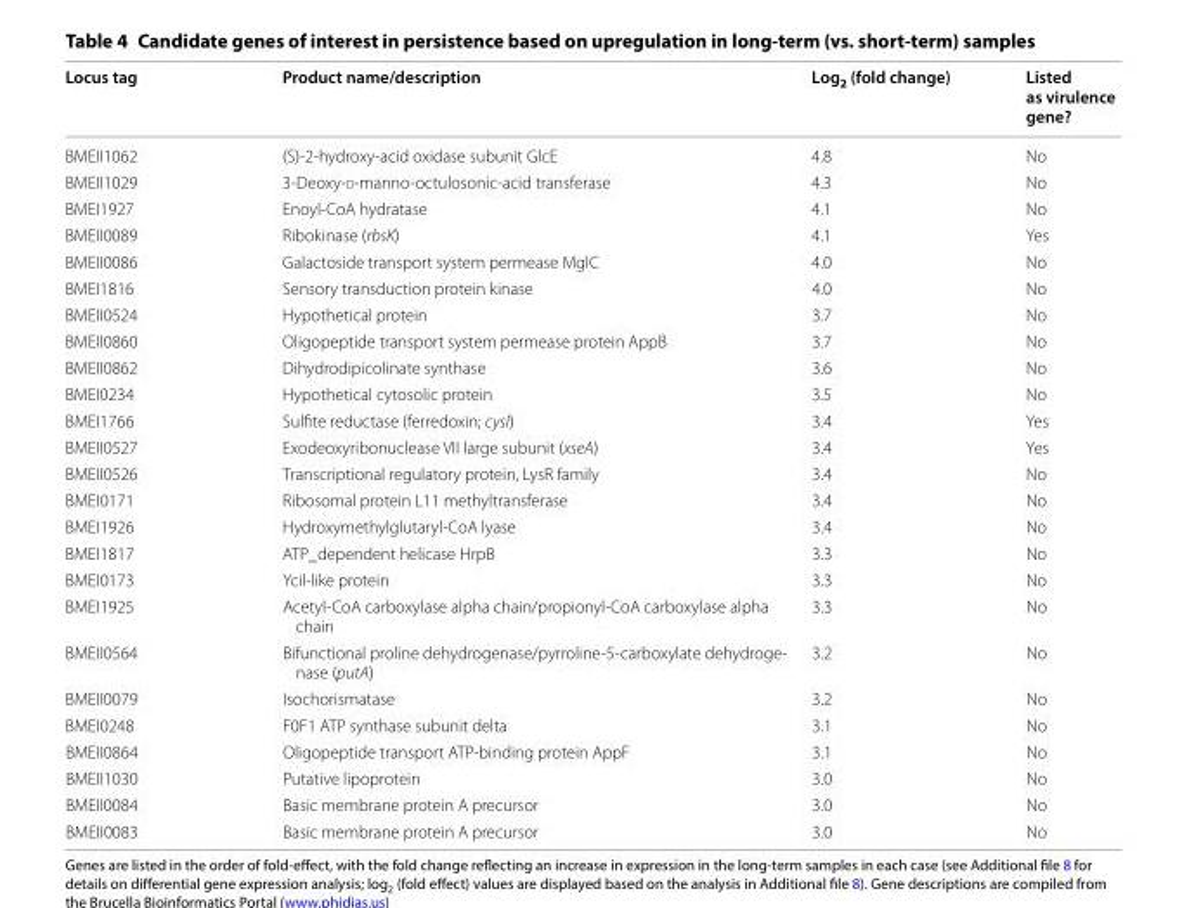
<table><thead><tr><td>Locus tag</td><td>Product name/description</td><td>Log<sub>2</sub> (fold change)</td><td>Listed as virulence gene?</td></tr></thead><tbody><tr><td>BMEII1062</td><td>(S)-2-hydroxy-acid oxidase subunit GlcE</td><td>4.8</td><td>No</td></tr><tr><td>BMEII1029</td><td>3-Deoxy-d-manno-octulosonic-acid transferase</td><td>4.3</td><td>No</td></tr><tr><td>BMEI1927</td><td>Enoyl-CoA hydratase</td><td>4.1</td><td>No</td></tr><tr><td>BMEII0089</td><td>Ribokinase (rbsK)</td><td>4.1</td><td>Yes</td></tr><tr><td>BMEII0086</td><td>Galactoside transport system permease MglC</td><td>4.0</td><td>No</td></tr><tr><td>BMEI1816</td><td>Sensory transduction protein kinase</td><td>4.0</td><td>No</td></tr><tr><td>BMEII0524</td><td>Hypothetical protein</td><td>3.7</td><td>No</td></tr><tr><td>BMEII0860</td><td>Oligopeptide transport system permease protein AppB</td><td>3.7</td><td>No</td></tr><tr><td>BMEII0862</td><td>Dihydrodipicolinate synthase</td><td>3.6</td><td>No</td></tr><tr><td>BMEI0234</td><td>Hypothetical cytosolic protein</td><td>3.5</td><td>No</td></tr><tr><td>BMEI1766</td><td>Sulfite reductase (ferredoxin; cysI)</td><td>3.4</td><td>Yes</td></tr><tr><td>BMEII0527</td><td>Exodeoxyribonuclease VII large subunit (xseA)</td><td>3.4</td><td>Yes</td></tr><tr><td>BMEII0526</td><td>Transcriptional regulatory protein, LysR family</td><td>3.4</td><td>No</td></tr><tr><td>BMEI0171</td><td>Ribosomal protein L11 methyltransferase</td><td>3.4</td><td>No</td></tr><tr><td>BMEI1926</td><td>Hydroxymethylglutaryl-CoA lyase</td><td>3.4</td><td>No</td></tr><tr><td>BMEI1817</td><td>ATP_dependent helicase HrpB</td><td>3.3</td><td>No</td></tr><tr><td>BMEI0173</td><td>Ycil-like protein</td><td>3.3</td><td>No</td></tr><tr><td>BMEI1925</td><td>Acetyl-CoA carboxylase alpha chain/propionyl-CoA carboxylase alpha chain</td><td>3.3</td><td>No</td></tr><tr><td>BMEII0564</td><td>Bifunctional proline dehydrogenase/pyrroline-5-carboxylate dehydroge- nase (putA)</td><td>3.2</td><td>No</td></tr><tr><td>BMEII0079</td><td>Isochorismatase</td><td>3.2</td><td>No</td></tr><tr><td>BMEI0248</td><td>F0F1 ATP synthase subunit delta</td><td>3.1</td><td>No</td></tr><tr><td>BMEII0864</td><td>Oligopeptide transport ATP-binding protein AppF</td><td>3.1</td><td>No</td></tr><tr><td>BMEII1030</td><td>Putative lipoprotein</td><td>3.0</td><td>No</td></tr><tr><td>BMEII0084</td><td>Basic membrane protein A precursor</td><td>3.0</td><td>No</td></tr><tr><td>BMEII0083</td><td>Basic membrane protein A precursor</td><td>3.0</td><td>No</td></tr></tbody></table>